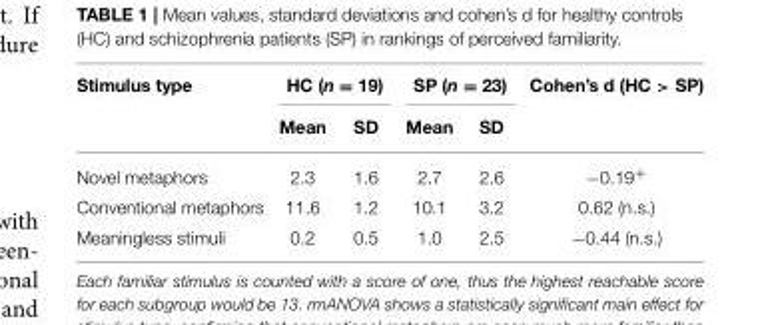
<table><thead><tr><td rowspan="2">Stimulus type</td><td colspan="2">HC (n = 19)</td><td colspan="2">SP (n = 23)</td><td rowspan="2">Cohen’s d (HC &gt; SP)</td></tr><tr><td>Mean</td><td>SD</td><td>Mean</td><td>SD</td></tr></thead><tbody><tr><td>Novel metaphors</td><td>2.3</td><td>1.6</td><td>2.7</td><td>2.6</td><td>−0.19<sup>+</sup></td></tr><tr><td>Conventional metaphors</td><td>11.6</td><td>1.2</td><td>10.1</td><td>3.2</td><td>0.62 (n.s.)</td></tr><tr><td>Meaningless stimuli</td><td>0.2</td><td>0.5</td><td>1.0</td><td>2.5</td><td>−0.44 (n.s.)</td></tr></tbody></table>